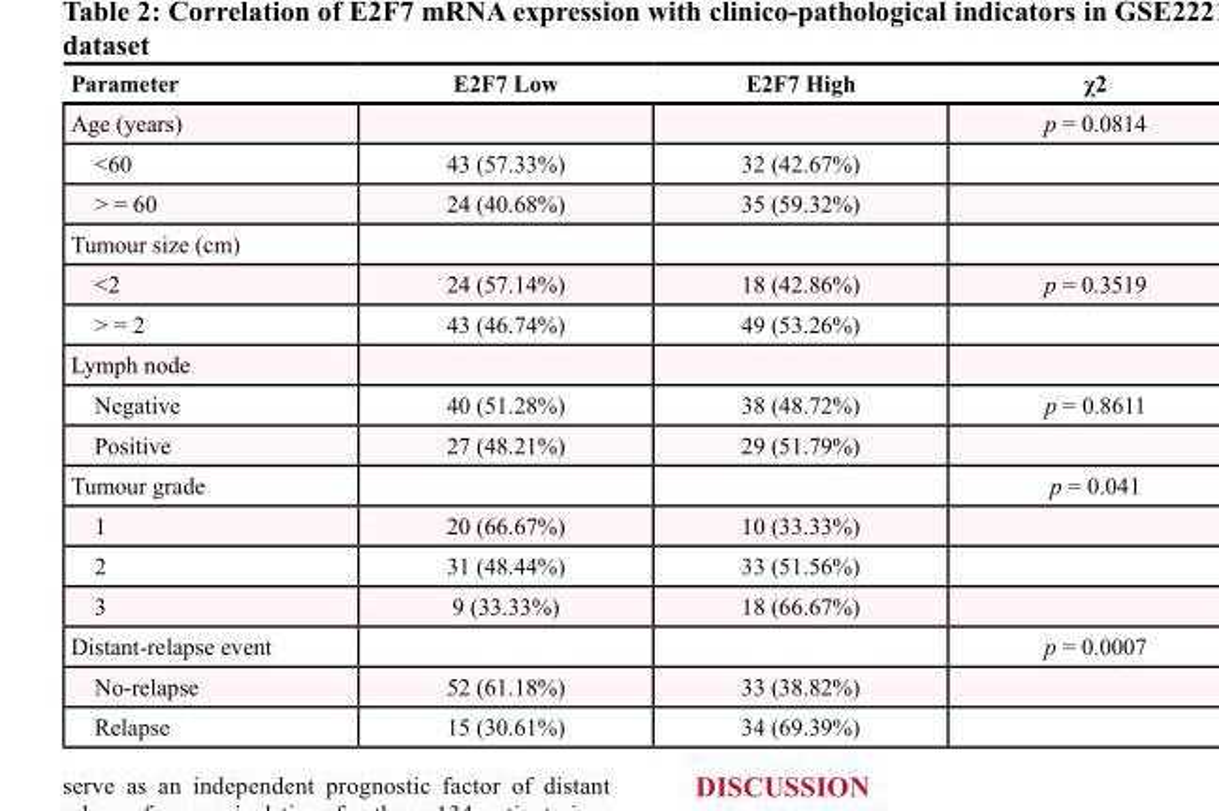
<table><thead><tr><td>Parameter</td><td>E2F7 Low</td><td>E2F7 High</td><td>χ2</td></tr></thead><tbody><tr><td>Age (years)</td><td></td><td></td><td>p = 0.0814</td></tr><tr><td>&lt;60</td><td>43 (57.33%)</td><td>32 (42.67%)</td><td></td></tr><tr><td>&gt; = 60</td><td>24 (40.68%)</td><td>35 (59.32%)</td><td></td></tr><tr><td colspan="4">Tumour size (cm)</td></tr><tr><td>&lt;2</td><td>24 (57.14%)</td><td>18 (42.86%)</td><td>p = 0.3519</td></tr><tr><td>&gt; = 2</td><td>43 (46.74%)</td><td>49 (53.26%)</td><td></td></tr><tr><td colspan="4">Lymph node</td></tr><tr><td>Negative</td><td>40 (51.28%)</td><td>38 (48.72%)</td><td>p = 0.8611</td></tr><tr><td>Positive</td><td>27 (48.21%)</td><td>29 (51.79%)</td><td></td></tr><tr><td>Tumour grade</td><td></td><td></td><td>p = 0.041</td></tr><tr><td>1</td><td>20 (66.67%)</td><td>10 (33.33%)</td><td></td></tr><tr><td>2</td><td>31 (48.44%)</td><td>33 (51.56%)</td><td></td></tr><tr><td>3</td><td>9 (33.33%)</td><td>18 (66.67%)</td><td></td></tr><tr><td>Distant-relapse event</td><td></td><td></td><td>p = 0.0007</td></tr><tr><td>No-relapse</td><td>52 (61.18%)</td><td>33 (38.82%)</td><td></td></tr><tr><td>Relapse</td><td>15 (30.61%)</td><td>34 (69.39%)</td><td></td></tr></tbody></table>